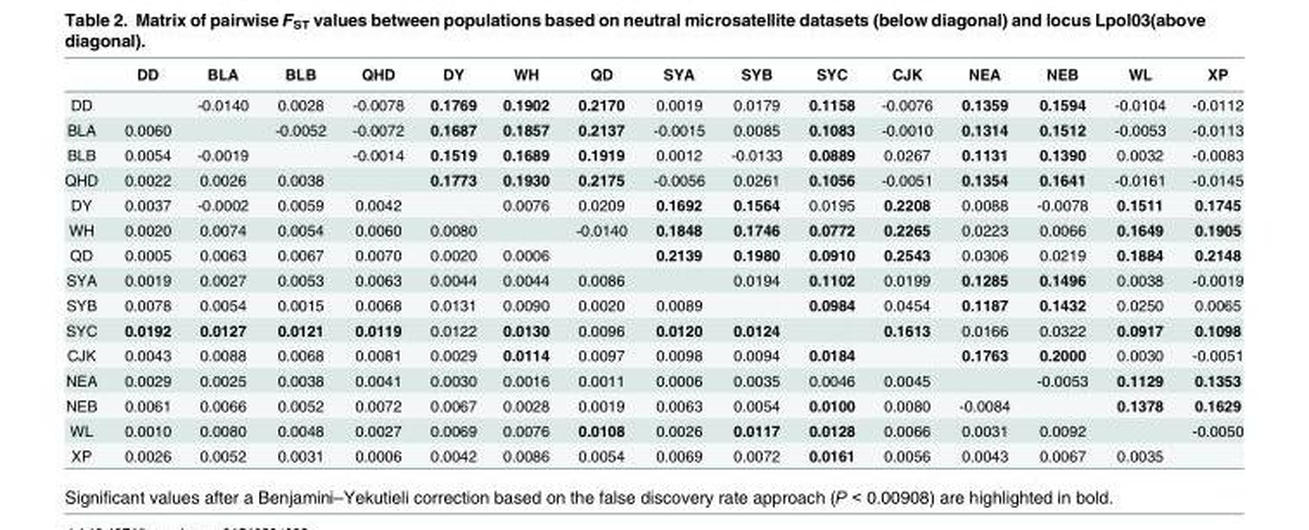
<table><thead><tr><td></td><td>DD</td><td>BLA</td><td>BLB</td><td>QHD</td><td>DY</td><td>WH</td><td>QD</td><td>SYA</td><td>SYB</td><td>SYC</td><td>CJK</td><td>NEA</td><td>NEB</td><td>WL</td><td>XP</td></tr></thead><tbody><tr><td>DD</td><td></td><td>-0.0140</td><td>0.0028</td><td>-0.0078</td><td>0.1769</td><td>0.1902</td><td>0.2170</td><td>0.0019</td><td>0.0179</td><td>0.1158</td><td>-0.0076</td><td>0.1359</td><td>0.1594</td><td>-0.0104</td><td>-0.0112</td></tr><tr><td>BLA</td><td>0.0060</td><td></td><td>-0.0052</td><td>-0.0072</td><td>0.1687</td><td>0.1857</td><td>0.2137</td><td>-0.0015</td><td>0.0085</td><td>0.1083</td><td>-0.0010</td><td>0.1314</td><td>0.1512</td><td>-0.0053</td><td>-0.0113</td></tr><tr><td>BLB</td><td>0.0054</td><td>-0.0019</td><td></td><td>-0.0014</td><td>0.1519</td><td>0.1689</td><td>0.1919</td><td>0.0012</td><td>-0.0133</td><td>0.0889</td><td>0.0267</td><td>0.1131</td><td>0.1390</td><td>0.0032</td><td>-0.0083</td></tr><tr><td>QHD</td><td>0.0022</td><td>0.0026</td><td>0.0038</td><td></td><td>0.1773</td><td>0.1930</td><td>0.2175</td><td>-0.0056</td><td>0.0261</td><td>0.1056</td><td>-0.0051</td><td>0.1354</td><td>0.1641</td><td>-0.0161</td><td>-0.0145</td></tr><tr><td>DY</td><td>0.0037</td><td>-0.0002</td><td>0.0059</td><td>0.0042</td><td></td><td>0.0076</td><td>0.0209</td><td>0.1692</td><td>0.1564</td><td>0.0195</td><td>0.2208</td><td>0.0088</td><td>-0.0078</td><td>0.1511</td><td>0.1745</td></tr><tr><td>WH</td><td>0.0020</td><td>0.0074</td><td>0.0054</td><td>0.0060</td><td>0.0080</td><td></td><td>-0.0140</td><td>0.1848</td><td>0.1746</td><td>0.0772</td><td>0.2265</td><td>0.0223</td><td>0.0066</td><td>0.1649</td><td>0.1905</td></tr><tr><td>QD</td><td>0.0005</td><td>0.0063</td><td>0.0067</td><td>0.0070</td><td>0.0020</td><td>0.0006</td><td></td><td>0.2139</td><td>0.1980</td><td>0.0910</td><td>0.2543</td><td>0.0306</td><td>0.0219</td><td>0.1884</td><td>0.2148</td></tr><tr><td>SYA</td><td>0.0019</td><td>0.0027</td><td>0.0053</td><td>0.0063</td><td>0.0044</td><td>0.0044</td><td>0.0086</td><td></td><td>0.0194</td><td>0.1102</td><td>0.0199</td><td>0.1285</td><td>0.1496</td><td>0.0038</td><td>-0.0019</td></tr><tr><td>SYB</td><td>0.0078</td><td>0.0054</td><td>0.0015</td><td>0.0068</td><td>0.0131</td><td>0.0090</td><td>0.0020</td><td>0.0089</td><td></td><td>0.0984</td><td>0.0454</td><td>0.1187</td><td>0.1432</td><td>0.0250</td><td>0.0065</td></tr><tr><td>SYC</td><td>0.0192</td><td>0.0127</td><td>0.0121</td><td>0.0119</td><td>0.0122</td><td>0.0130</td><td>0.0096</td><td>0.0120</td><td>0.0124</td><td></td><td>0.1613</td><td>0.0166</td><td>0.0322</td><td>0.0917</td><td>0.1098</td></tr><tr><td>CJK</td><td>0.0043</td><td>0.0088</td><td>0.0068</td><td>0.0081</td><td>0.0029</td><td>0.0114</td><td>0.0097</td><td>0.0098</td><td>0.0094</td><td>0.0184</td><td></td><td>0.1763</td><td>0.2000</td><td>0.0030</td><td>-0.0051</td></tr><tr><td>NEA</td><td>0.0029</td><td>0.0025</td><td>0.0038</td><td>0.0041</td><td>0.0030</td><td>0.0016</td><td>0.0011</td><td>0.0006</td><td>0.0035</td><td>0.0046</td><td>0.0045</td><td></td><td>-0.0053</td><td>0.1129</td><td>0.1353</td></tr><tr><td>NEB</td><td>0.0061</td><td>0.0066</td><td>0.0052</td><td>0.0072</td><td>0.0067</td><td>0.0028</td><td>0.0019</td><td>0.0063</td><td>0.0054</td><td>0.0100</td><td>0.0080</td><td>-0.0084</td><td></td><td>0.1378</td><td>0.1629</td></tr><tr><td>WL</td><td>0.0010</td><td>0.0080</td><td>0.0048</td><td>0.0027</td><td>0.0069</td><td>0.0076</td><td>0.0108</td><td>0.0026</td><td>0.0117</td><td>0.0128</td><td>0.0066</td><td>0.0031</td><td>0.0092</td><td></td><td>-0.0050</td></tr><tr><td>XP</td><td>0.0026</td><td>0.0052</td><td>0.0031</td><td>0.0006</td><td>0.0042</td><td>0.0086</td><td>0.0054</td><td>0.0069</td><td>0.0072</td><td>0.0161</td><td>0.0056</td><td>0.0043</td><td>0.0067</td><td>0.0035</td><td></td></tr></tbody></table>